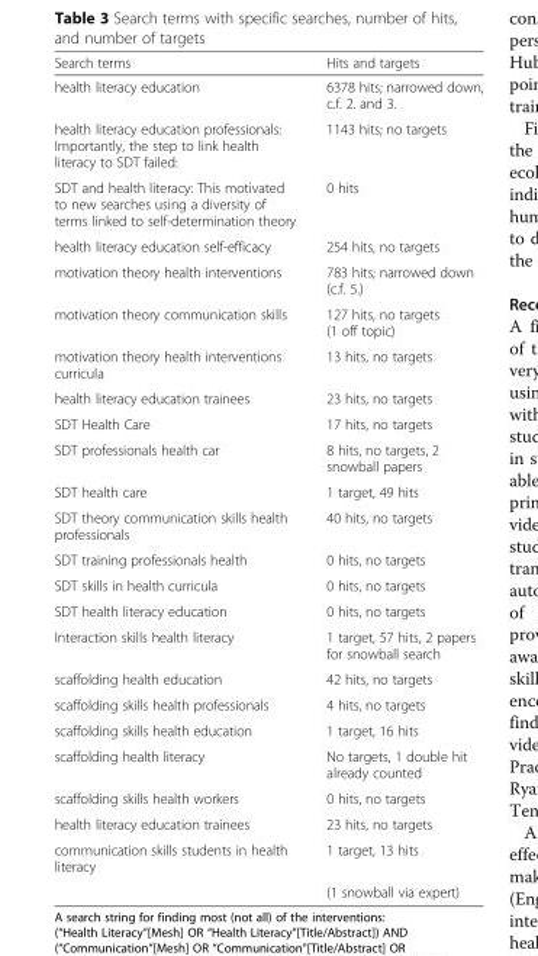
<table><thead><tr><td>Search terms</td><td>Hits and targets</td></tr></thead><tbody><tr><td>health literacy education</td><td>6378 hits; narrowed down, c.f. 2. and 3.</td></tr><tr><td>health literacy education professionals: Importantly, the step to link health literacy to SDT failed:</td><td>1143 hits; no targets</td></tr><tr><td>SDT and health literacy: This motivated to new searches using a diversity of terms linked to self-determination theory</td><td>0 hits</td></tr><tr><td>health literacy education self-efficacy</td><td>254 hits, no targets</td></tr><tr><td>motivation theory health interventions</td><td>783 hits; narrowed down (c.f. 5.)</td></tr><tr><td>motivation theory communication skills</td><td>127 hits, no targets (1 off topic)</td></tr><tr><td>motivation theory health interventions curricula</td><td>13 hits, no targets</td></tr><tr><td>health literacy education trainees</td><td>23 hits, no targets</td></tr><tr><td>SDT Health Care</td><td>17 hits, no targets</td></tr><tr><td>SDT professionals health car</td><td>8 hits, no targets, 2 snowball papers</td></tr><tr><td>SDT health care</td><td>1 target, 49 hits</td></tr><tr><td>SDT theory communication skills health professionals</td><td>40 hits, no targets</td></tr><tr><td>SDT training professionals health</td><td>0 hits, no targets</td></tr><tr><td>SDT skills in health curricula</td><td>0 hits, no targets</td></tr><tr><td>SDT health literacy education</td><td>0 hits, no targets</td></tr><tr><td>Interaction skills health literacy</td><td>1 target, 57 hits, 2 papers for snowball search</td></tr><tr><td>scaffolding health education</td><td>42 hits, no targets</td></tr><tr><td>scaffolding skills health professionals</td><td>4 hits, no targets</td></tr><tr><td>scaffolding skills health education</td><td>1 target, 16 hits</td></tr><tr><td>scaffolding health literacy</td><td>No targets, 1 double hit already counted</td></tr><tr><td>scaffolding skills health workers</td><td>0 hits, no targets</td></tr><tr><td>health literacy education trainees</td><td>23 hits, no targets</td></tr><tr><td rowspan="2">communication skills students in health literacy</td><td>1 target, 13 hits</td></tr><tr><td>(1 snowball via expert)</td></tr></tbody></table>